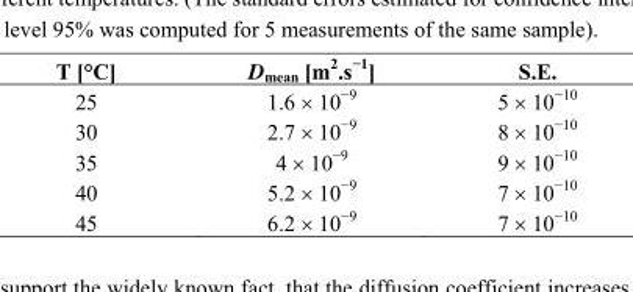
<table><thead><tr><td>T [°C]</td><td>D<sub>mean</sub> [m<sup>2</sup>.s<sup>−1</sup>]</td><td>S.E.</td></tr></thead><tbody><tr><td>25</td><td>1.6 × 10<sup>−9</sup></td><td>5 × 10<sup>−10</sup></td></tr><tr><td>30</td><td>2.7 × 10<sup>−9</sup></td><td>8 × 10<sup>−10</sup></td></tr><tr><td>35</td><td>4 × 10<sup>−9</sup></td><td>9 × 10<sup>−10</sup></td></tr><tr><td>40</td><td>5.2 × 10<sup>−9</sup></td><td>7 × 10<sup>−10</sup></td></tr><tr><td>45</td><td>6.2 × 10<sup>−9</sup></td><td>7 × 10<sup>−10</sup></td></tr></tbody></table>